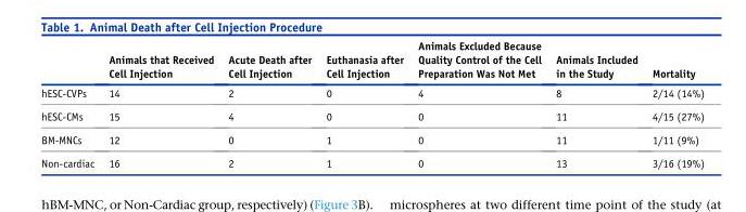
<table><thead><tr><td></td><td>Animals that Received Cell Injection</td><td>Acute Death after Cell Injection</td><td>Euthanasia after Cell Injection</td><td>Animals Excluded Because Quality Control of the Cell Preparation Was Not Met</td><td>Animals Included in the Study</td><td>Mortality</td></tr></thead><tbody><tr><td>hESC-CVPs</td><td>14</td><td>2</td><td>0</td><td>4</td><td>8</td><td>2/14 (14%)</td></tr><tr><td>hESC-CMs</td><td>15</td><td>4</td><td>0</td><td>0</td><td>11</td><td>4/15 (27%)</td></tr><tr><td>BM-MNCs</td><td>12</td><td>0</td><td>1</td><td>0</td><td>11</td><td>1/11 (9%)</td></tr><tr><td>Non-cardiac</td><td>16</td><td>2</td><td>1</td><td>0</td><td>13</td><td>3/16 (19%)</td></tr></tbody></table>